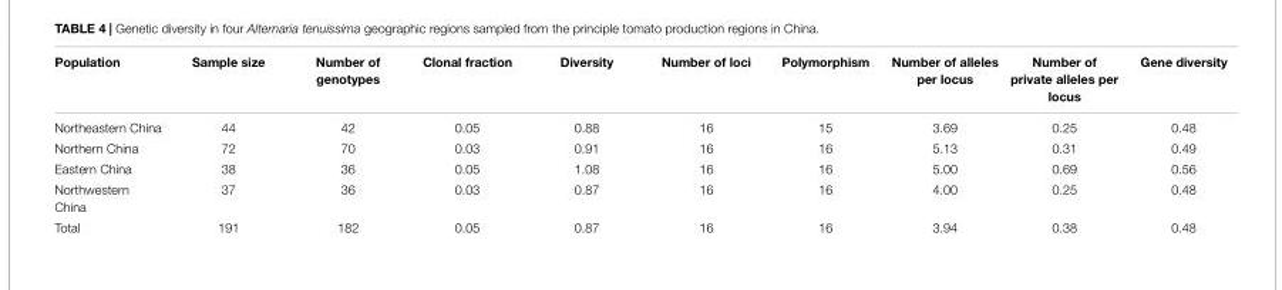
<table><thead><tr><td>Population</td><td>Sample size</td><td>Number of genotypes</td><td>Clonal fraction</td><td>Diversity</td><td>Number of loci</td><td>Polymorphism</td><td>Number of alleles per locus</td><td>Number of private alleles per locus</td><td>Gene diversity</td></tr></thead><tbody><tr><td>Northeastern China</td><td>44</td><td>42</td><td>0.05</td><td>0.88</td><td>16</td><td>15</td><td>3.69</td><td>0.25</td><td>0.48</td></tr><tr><td>Northern China</td><td>72</td><td>70</td><td>0.03</td><td>0.91</td><td>16</td><td>16</td><td>5.13</td><td>0.31</td><td>0.49</td></tr><tr><td>Eastern China</td><td>38</td><td>36</td><td>0.05</td><td>1.08</td><td>16</td><td>16</td><td>5.00</td><td>0.69</td><td>0.56</td></tr><tr><td>Northwestern China</td><td>37</td><td>36</td><td>0.03</td><td>0.87</td><td>16</td><td>16</td><td>4.00</td><td>0.25</td><td>0.48</td></tr><tr><td>Total</td><td>191</td><td>182</td><td>0.05</td><td>0.87</td><td>16</td><td>16</td><td>3.94</td><td>0.38</td><td>0.48</td></tr></tbody></table>